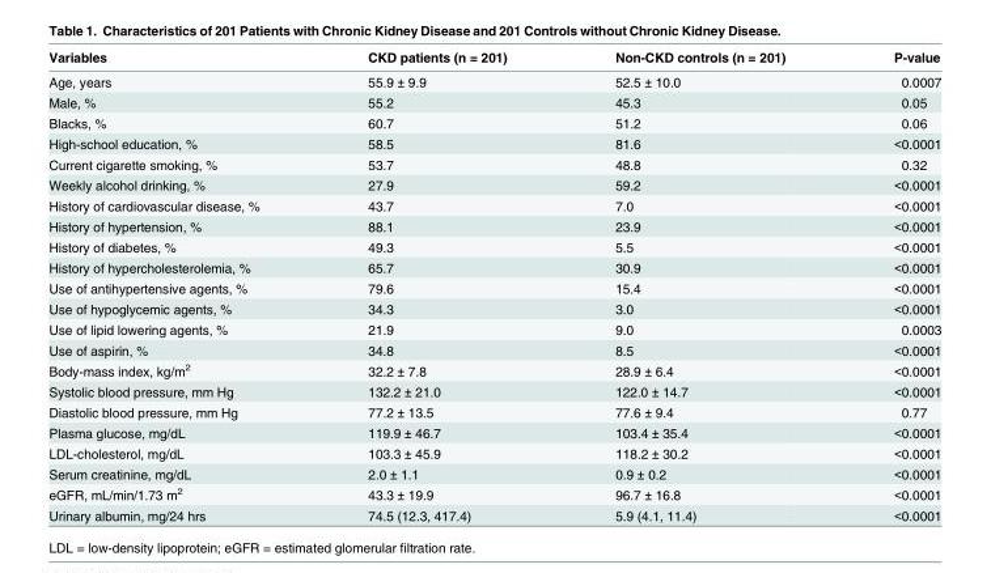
<table><thead><tr><td>Variables</td><td>CKD patients (n = 201)</td><td>Non-CKD controls (n = 201)</td><td>P-value</td></tr></thead><tbody><tr><td>Age, years</td><td>55.9 ± 9.9</td><td>52.5 ± 10.0</td><td>0.0007</td></tr><tr><td>Male, %</td><td>55.2</td><td>45.3</td><td>0.05</td></tr><tr><td>Blacks, %</td><td>60.7</td><td>51.2</td><td>0.06</td></tr><tr><td>High-school education, %</td><td>58.5</td><td>81.6</td><td>&lt;0.0001</td></tr><tr><td>Current cigarette smoking, %</td><td>53.7</td><td>48.8</td><td>0.32</td></tr><tr><td>Weekly alcohol drinking, %</td><td>27.9</td><td>59.2</td><td>&lt;0.0001</td></tr><tr><td>History of cardiovascular disease, %</td><td>43.7</td><td>7.0</td><td>&lt;0.0001</td></tr><tr><td>History of hypertension, %</td><td>88.1</td><td>23.9</td><td>&lt;0.0001</td></tr><tr><td>History of diabetes, %</td><td>49.3</td><td>5.5</td><td>&lt;0.0001</td></tr><tr><td>History of hypercholesterolemia, %</td><td>65.7</td><td>30.9</td><td>&lt;0.0001</td></tr><tr><td>Use of antihypertensive agents, %</td><td>79.6</td><td>15.4</td><td>&lt;0.0001</td></tr><tr><td>Use of hypoglycemic agents, %</td><td>34.3</td><td>3.0</td><td>&lt;0.0001</td></tr><tr><td>Use of lipid lowering agents, %</td><td>21.9</td><td>9.0</td><td>0.0003</td></tr><tr><td>Use of aspirin, %</td><td>34.8</td><td>8.5</td><td>&lt;0.0001</td></tr><tr><td>Body-mass index, kg/m<sup>2</sup></td><td>32.2 ± 7.8</td><td>28.9 ± 6.4</td><td>&lt;0.0001</td></tr><tr><td>Systolic blood pressure, mm Hg</td><td>132.2 ± 21.0</td><td>122.0 ± 14.7</td><td>&lt;0.0001</td></tr><tr><td>Diastolic blood pressure, mm Hg</td><td>77.2 ± 13.5</td><td>77.6 ± 9.4</td><td>0.77</td></tr><tr><td>Plasma glucose, mg/dL</td><td>119.9 ± 46.7</td><td>103.4 ± 35.4</td><td>&lt;0.0001</td></tr><tr><td>LDL-cholesterol, mg/dL</td><td>103.3 ± 45.9</td><td>118.2 ± 30.2</td><td>&lt;0.0001</td></tr><tr><td>Serum creatinine, mg/dL</td><td>2.0 ± 1.1</td><td>0.9 ± 0.2</td><td>&lt;0.0001</td></tr><tr><td>eGFR, mL/min/1.73 m<sup>2</sup></td><td>43.3 ± 19.9</td><td>96.7 ± 16.8</td><td>&lt;0.0001</td></tr><tr><td>Urinary albumin, mg/24 hrs</td><td>74.5 (12.3, 417.4)</td><td>5.9 (4.1, 11.4)</td><td>&lt;0.0001</td></tr></tbody></table>